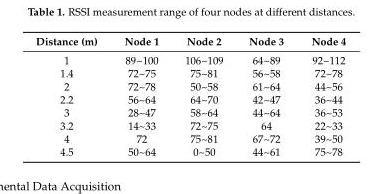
<table><thead><tr><td>Distance (m)</td><td>Node 1</td><td>Node 2</td><td>Node 3</td><td>Node 4</td></tr></thead><tbody><tr><td>1</td><td>89~100</td><td>106~109</td><td>64~89</td><td>92~112</td></tr><tr><td>1.4</td><td>72~75</td><td>75~81</td><td>56~58</td><td>72~78</td></tr><tr><td>2</td><td>72~78</td><td>50~58</td><td>61~64</td><td>44~56</td></tr><tr><td>2.2</td><td>56~64</td><td>64~70</td><td>42~47</td><td>36~44</td></tr><tr><td>3</td><td>28~47</td><td>58~64</td><td>44~64</td><td>36~53</td></tr><tr><td>3.2</td><td>14~33</td><td>72~75</td><td>64</td><td>22~33</td></tr><tr><td>4</td><td>72</td><td>75~81</td><td>67~72</td><td>39~50</td></tr><tr><td>4.5</td><td>50~64</td><td>0~50</td><td>44~61</td><td>75~78</td></tr></tbody></table>